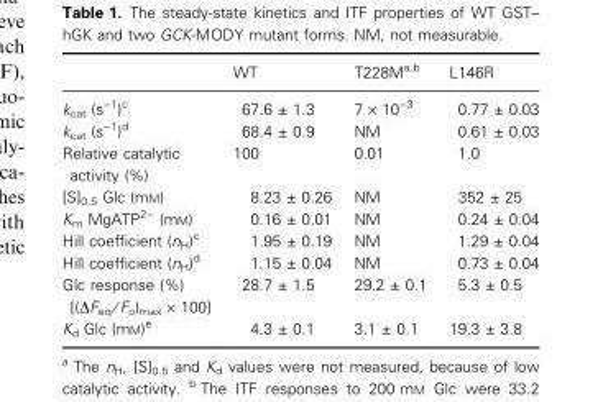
<table><thead><tr><td></td><td>WT</td><td>T228M<sup>a,b</sup></td><td>L146R</td></tr></thead><tbody><tr><td>k<sub>cat</sub> (s<sup>−1</sup>)<sup>c</sup></td><td>67.6 ± 1.3</td><td>7 × 10<sup>−3</sup></td><td>0.77 ± 0.03</td></tr><tr><td>k<sub>cat</sub> (s<sup>−1</sup>)<sup>d</sup></td><td>68.4 ± 0.9</td><td>NM</td><td>0.61 ± 0.03</td></tr><tr><td>Relative catalytic activity (%)</td><td>100</td><td>0.01</td><td>1.0</td></tr><tr><td>[S]<sub>0.5</sub> Glc (mM)</td><td>8.23 ± 0.26</td><td>NM</td><td>352 ± 25</td></tr><tr><td>K<sub>m</sub> MgATP<sup>2−</sup> (mM)</td><td>0.16 ± 0.01</td><td>NM</td><td>0.24 ± 0.04</td></tr><tr><td>Hill coefficient (n<sub>H</sub>)<sup>c</sup></td><td>1.95 ± 0.19</td><td>NM</td><td>1.29 ± 0.04</td></tr><tr><td>Hill coefficient (n<sub>H</sub>)<sup>d</sup></td><td>1.15 ± 0.04</td><td>NM</td><td>0.73 ± 0.04</td></tr><tr><td>Glc response (%) [(ΔFeq ⁄ Fo)max × 100]</td><td>28.7 ± 1.5</td><td>29.2 ± 0.1</td><td>5.3 ± 0.5</td></tr><tr><td>K<sub>d</sub> Glc (mM)<sup>e</sup></td><td>4.3 ± 0.1</td><td>3.1 ± 0.1</td><td>19.3 ± 3.8</td></tr></tbody></table>